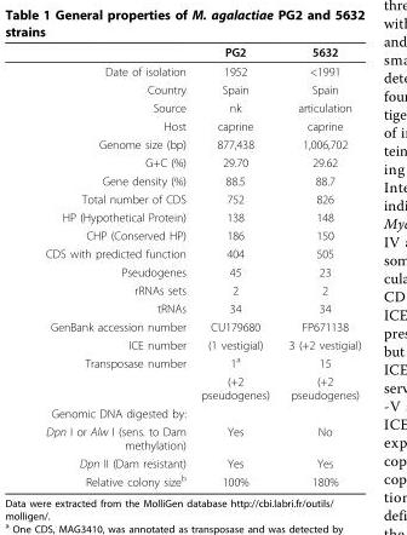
<table><thead><tr><td></td><td>PG2</td><td>5632</td></tr></thead><tbody><tr><td>Date of isolation</td><td>1952</td><td>&lt;1991</td></tr><tr><td>Country</td><td>Spain</td><td>Spain</td></tr><tr><td>Source</td><td>nk</td><td>articulation</td></tr><tr><td>Host</td><td>caprine</td><td>caprine</td></tr><tr><td>Genome size (bp)</td><td>877,438</td><td>1,006,702</td></tr><tr><td>G+C (%)</td><td>29.70</td><td>29.62</td></tr><tr><td>Gene density (%)</td><td>88.5</td><td>88.7</td></tr><tr><td>Total number of CDS</td><td>752</td><td>826</td></tr><tr><td>HP (Hypothetical Protein)</td><td>138</td><td>148</td></tr><tr><td>CHP (Conserved HP)</td><td>186</td><td>150</td></tr><tr><td>CDS with predicted function</td><td>404</td><td>505</td></tr><tr><td>Pseudogenes</td><td>45</td><td>23</td></tr><tr><td>rRNAs sets</td><td>2</td><td>2</td></tr><tr><td>tRNAs</td><td>34</td><td>34</td></tr><tr><td>GenBank accession number</td><td>CU179680</td><td>FP671138</td></tr><tr><td>ICE number</td><td>(1 vestigial)</td><td>3 (+2 vestigial)</td></tr><tr><td rowspan="2">Transposase number</td><td>1<sup>a</sup></td><td>15</td></tr><tr><td>(+2 pseudogenes)</td><td>(+2 pseudogenes)</td></tr><tr><td colspan="3">Genomic DNA digested by:</td></tr><tr><td>Dpn I or Alw I (sens. to Dam methylation)</td><td>Yes</td><td>No</td></tr><tr><td>Dpn II (Dam resistant)</td><td>Yes</td><td>Yes</td></tr><tr><td>Relative colony size<sup>b</sup></td><td>100%</td><td>180%</td></tr></tbody></table>